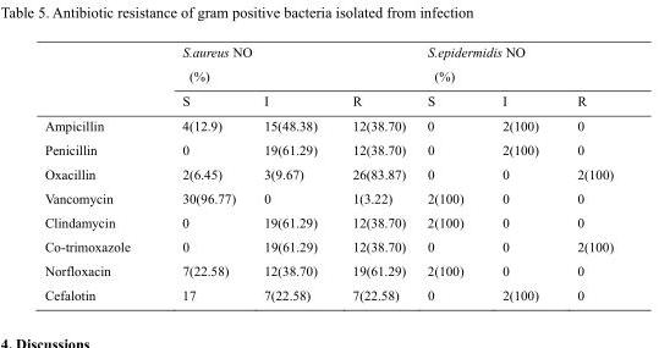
<table><thead><tr><td rowspan="2"></td><td colspan="3">S.aureus NO (%)</td><td colspan="3">S.epidermidis NO (%)</td></tr><tr><td>S</td><td>I</td><td>R</td><td>S</td><td>I</td><td>R</td></tr></thead><tbody><tr><td>Ampicillin</td><td>4(12.9)</td><td>15(48.38)</td><td>12(38.70)</td><td>0</td><td>2(100)</td><td>0</td></tr><tr><td>Penicillin</td><td>0</td><td>19(61.29)</td><td>12(38.70)</td><td>0</td><td>2(100)</td><td>0</td></tr><tr><td>Oxacillin</td><td>2(6.45)</td><td>3(9.67)</td><td>26(83.87)</td><td>0</td><td>0</td><td>2(100)</td></tr><tr><td>Vancomycin</td><td>30(96.77)</td><td>0</td><td>1(3.22)</td><td>2(100)</td><td>0</td><td>0</td></tr><tr><td>Clindamycin</td><td>0</td><td>19(61.29)</td><td>12(38.70)</td><td>2(100)</td><td>0</td><td>0</td></tr><tr><td>Co-trimoxazole</td><td>0</td><td>19(61.29)</td><td>12(38.70)</td><td>0</td><td>0</td><td>2(100)</td></tr><tr><td>Norfloxacin</td><td>7(22.58)</td><td>12(38.70)</td><td>19(61.29)</td><td>2(100)</td><td>0</td><td>0</td></tr><tr><td>Cefalotin</td><td>17</td><td>7(22.58)</td><td>7(22.58)</td><td>0</td><td>2(100)</td><td>0</td></tr></tbody></table>